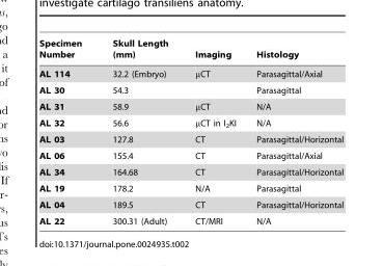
<table><thead><tr><td>Specimen Number</td><td>Skull Length (mm)</td><td>Imaging</td><td>Histology</td></tr></thead><tbody><tr><td>AL 114</td><td>32.2 (Embryo)</td><td>μCT</td><td>Parasagittal/Axial</td></tr><tr><td>AL 30</td><td>54.3</td><td></td><td>Parasagittal</td></tr><tr><td>AL 31</td><td>58.9</td><td>μCT</td><td>N/A</td></tr><tr><td>AL 32</td><td>56.6</td><td>μCT in I<sub>2</sub>KI</td><td>N/A</td></tr><tr><td>AL 03</td><td>127.8</td><td>CT</td><td>Parasagittal/Horizontal</td></tr><tr><td>AL 06</td><td>155.4</td><td>CT</td><td>Parasagittal/Axial</td></tr><tr><td>AL 34</td><td>164.68</td><td>CT</td><td>Parasagittal/Horizontal</td></tr><tr><td>AL 19</td><td>178.2</td><td>N/A</td><td>Parasagittal</td></tr><tr><td>AL 04</td><td>189.5</td><td>CT</td><td>Parasagittal/Horizontal</td></tr><tr><td>AL 22</td><td>300.31 (Adult)</td><td>CT/MRI</td><td>N/A</td></tr></tbody></table>